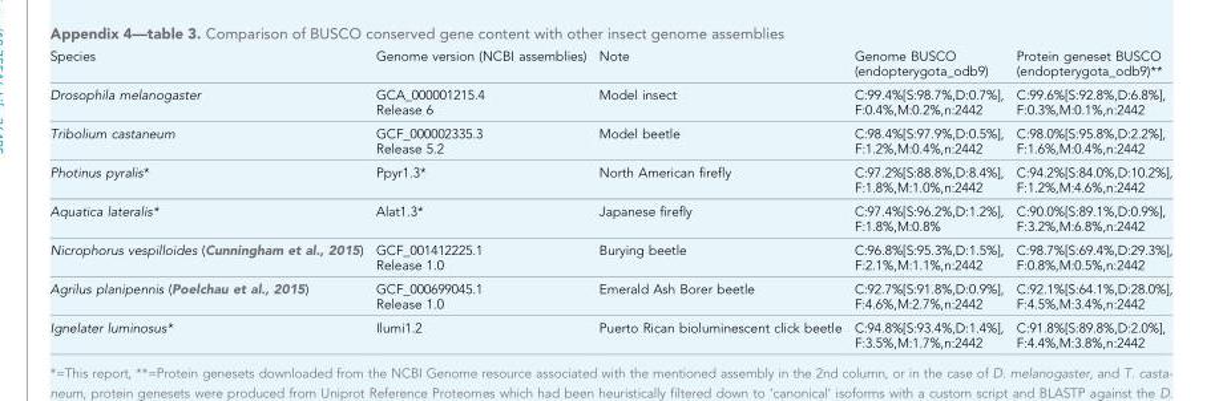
<table><tbody><tr><td>Species</td><td>Genome version (NCBI assemblies)</td><td>Note</td><td>Genome BUSCO (endopterygota_odb9)</td><td>Protein geneset BUSCO (endopterygota_odb9)**</td></tr><tr><td>Drosophila melanogaster</td><td>GCA_000001215.4 Release 6</td><td>Model insect</td><td>C:99.4%[S:98.7%,D:0.7%], F:0.4%,M:0.2%,n:2442</td><td>C:99.6%[S:92.8%,D:6.8%], F:0.3%,M:0.1%,n:2442</td></tr><tr><td>Tribolium castaneum</td><td>GCF_000002335.3 Release 5.2</td><td>Model beetle</td><td>C:98.4%[S:97.9%,D:0.5%], F:1.2%,M:0.4%,n:2442</td><td>C:98.0%[S:95.8%,D:2.2%], F:1.6%,M:0.4%,n:2442</td></tr><tr><td>Photinus pyralis*</td><td>Ppyr1.3*</td><td>North American firefly</td><td>C:97.2%[S:88.8%,D:8.4%], F:1.8%,M:1.0%,n:2442</td><td>C:94.2%[S:84.0%,D:10.2%], F:1.2%,M:4.6%,n:2442</td></tr><tr><td>Aquatica lateralis*</td><td>Alat1.3*</td><td>Japanese firefly</td><td>C:97.4%[S:96.2%,D:1.2%], F:1.8%,M:0.8%</td><td>C:90.0%[S:89.1%,D:0.9%], F:3.2%,M:6.8%,n:2442</td></tr><tr><td>Nicrophorus vespilloides (Cunningham et al., 2015)</td><td>GCF_001412225.1 Release 1.0</td><td>Burying beetle</td><td>C:96.8%[S:95.3%,D:1.5%], F:2.1%,M:1.1%,n:2442</td><td>C:98.7%[S:69.4%,D:29.3%], F:0.8%,M:0.5%,n:2442</td></tr><tr><td>Agrilus planipennis (Poelchau et al., 2015)</td><td>GCF_000699045.1 Release 1.0</td><td>Emerald Ash Borer beetle</td><td>C:92.7%[S:91.8%,D:0.9%], F:4.6%,M:2.7%,n:2442</td><td>C:92.1%[S:64.1%,D:28.0%], F:4.5%,M:3.4%,n:2442</td></tr><tr><td>Ignelater luminosus*</td><td>Ilumi1.2</td><td>Puerto Rican bioluminescent click beetle</td><td>C:94.8%[S:93.4%,D:1.4%], F:3.5%,M:1.7%,n:2442</td><td>C:91.8%[S:89.8%,D:2.0%], F:4.4%,M:3.8%,n:2442</td></tr></tbody></table>